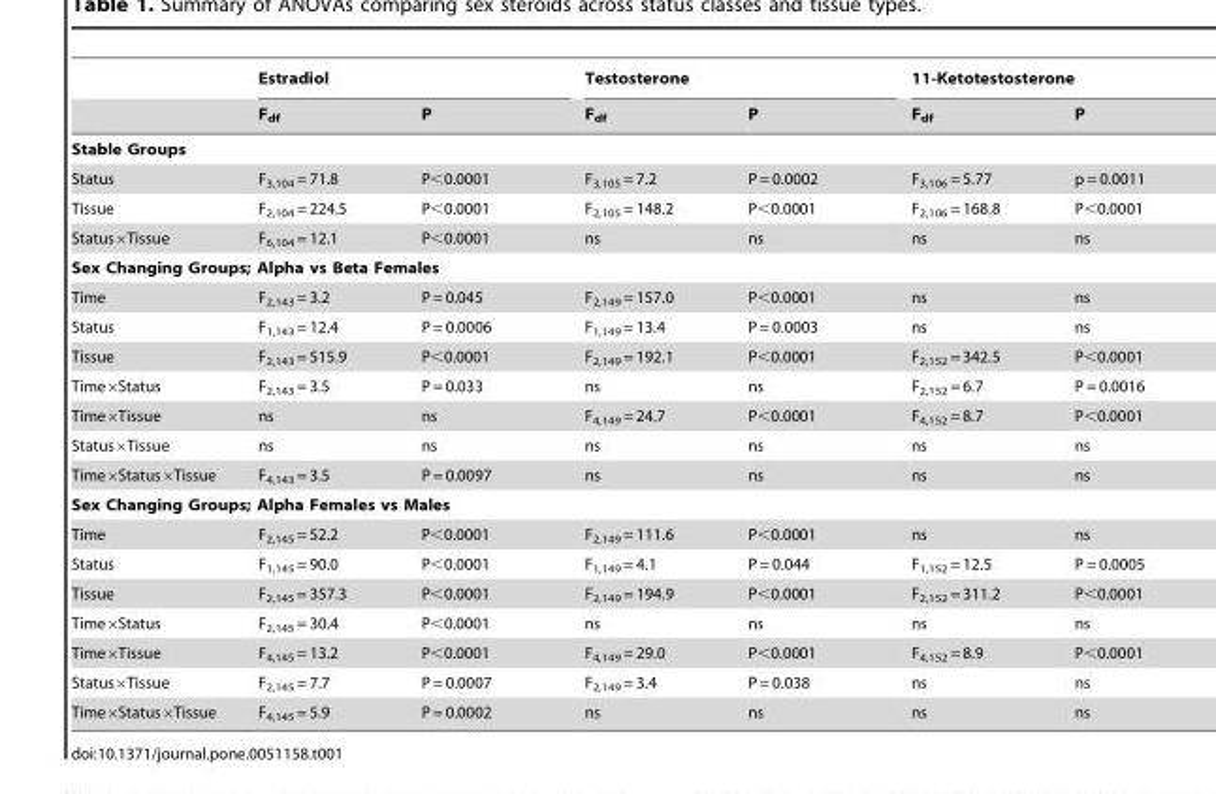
<table><thead><tr><td rowspan="2"></td><td colspan="2">Estradiol</td><td colspan="2">Testosterone</td><td colspan="2">11-Ketotestosterone</td></tr><tr><td>F<sub>df</sub></td><td>P</td><td>F<sub>df</sub></td><td>P</td><td>F<sub>df</sub></td><td>P</td></tr></thead><tbody><tr><td colspan="7">Stable Groups</td></tr><tr><td>Status</td><td>F<sub>3,104</sub> = 71.8</td><td>P&lt;0.0001</td><td>F<sub>3,105</sub> = 7.2</td><td>P = 0.0002</td><td>F<sub>3,106</sub> = 5.77</td><td>p = 0.0011</td></tr><tr><td>Tissue</td><td>F<sub>2,104</sub> = 224.5</td><td>P&lt;0.0001</td><td>F<sub>2,105</sub> = 148.2</td><td>P&lt;0.0001</td><td>F<sub>2,106</sub> = 168.8</td><td>P&lt;0.0001</td></tr><tr><td>Status×Tissue</td><td>F<sub>6,104</sub> = 12.1</td><td>P&lt;0.0001</td><td>ns</td><td>ns</td><td>ns</td><td>ns</td></tr><tr><td colspan="7">Sex Changing Groups; Alpha vs Beta Females</td></tr><tr><td>Time</td><td>F<sub>2,143</sub> = 3.2</td><td>P = 0.045</td><td>F<sub>2,149</sub> = 157.0</td><td>P&lt;0.0001</td><td>ns</td><td>ns</td></tr><tr><td>Status</td><td>F<sub>1,143</sub> = 12.4</td><td>P = 0.0006</td><td>F<sub>1,149</sub> = 13.4</td><td>P = 0.0003</td><td>ns</td><td>ns</td></tr><tr><td>Tissue</td><td>F<sub>2,143</sub> = 515.9</td><td>P&lt;0.0001</td><td>F<sub>2,149</sub> = 192.1</td><td>P&lt;0.0001</td><td>F<sub>2,152</sub> = 342.5</td><td>P&lt;0.0001</td></tr><tr><td>Time×Status</td><td>F<sub>2,143</sub> = 3.5</td><td>P = 0.033</td><td>ns</td><td>ns</td><td>F<sub>2,152</sub> = 6.7</td><td>P = 0.0016</td></tr><tr><td>Time×Tissue</td><td>ns</td><td>ns</td><td>F<sub>4,149</sub> = 24.7</td><td>P&lt;0.0001</td><td>F<sub>4,152</sub> = 8.7</td><td>P&lt;0.0001</td></tr><tr><td>Status×Tissue</td><td>ns</td><td>ns</td><td>ns</td><td>ns</td><td>ns</td><td>ns</td></tr><tr><td>Time×Status×Tissue</td><td>F<sub>4,143</sub> = 3.5</td><td>P = 0.0097</td><td>ns</td><td>ns</td><td>ns</td><td>ns</td></tr><tr><td colspan="7">Sex Changing Groups; Alpha Females vs Males</td></tr><tr><td>Time</td><td>F<sub>2,145</sub> = 52.2</td><td>P&lt;0.0001</td><td>F<sub>2,149</sub> = 111.6</td><td>P&lt;0.0001</td><td>ns</td><td>ns</td></tr><tr><td>Status</td><td>F<sub>1,145</sub> = 90.0</td><td>P&lt;0.0001</td><td>F<sub>1,149</sub> = 4.1</td><td>P = 0.044</td><td>F<sub>1,152</sub> = 12.5</td><td>P = 0.0005</td></tr><tr><td>Tissue</td><td>F<sub>2,145</sub> = 357.3</td><td>P&lt;0.0001</td><td>F<sub>2,149</sub> = 194.9</td><td>P&lt;0.0001</td><td>F<sub>2,152</sub> = 311.2</td><td>P&lt;0.0001</td></tr><tr><td>Time×Status</td><td>F<sub>2,145</sub> = 30.4</td><td>P&lt;0.0001</td><td>ns</td><td>ns</td><td>ns</td><td>ns</td></tr><tr><td>Time×Tissue</td><td>F<sub>4,145</sub> = 13.2</td><td>P&lt;0.0001</td><td>F<sub>4,149</sub> = 29.0</td><td>P&lt;0.0001</td><td>F<sub>4,152</sub> = 8.9</td><td>P&lt;0.0001</td></tr><tr><td>Status×Tissue</td><td>F<sub>2,145</sub> = 7.7</td><td>P = 0.0007</td><td>F<sub>2,149</sub> = 3.4</td><td>P = 0.038</td><td>ns</td><td>ns</td></tr><tr><td>Time×Status×Tissue</td><td>F<sub>4,145</sub> = 5.9</td><td>P = 0.0002</td><td>ns</td><td>ns</td><td>ns</td><td>ns</td></tr></tbody></table>